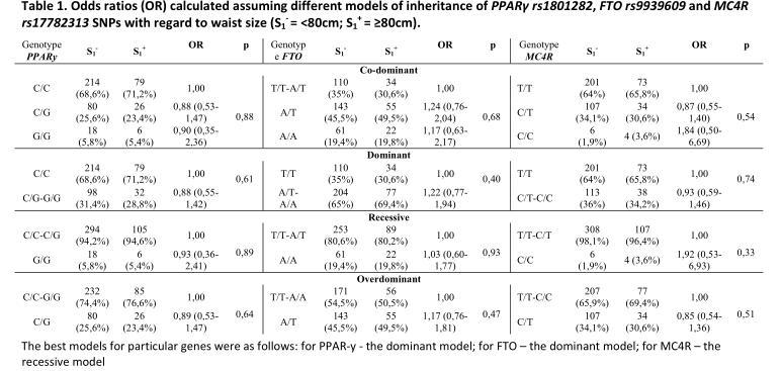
<table><tbody><tr><td>Genotype PPARy</td><td>S<sub>1</sub> <sup>-</sup></td><td>S<sub>1</sub> <sup>+</sup></td><td>OR</td><td>p</td><td>Genotyp e FTO</td><td>S<sub>1</sub> <sup>-</sup></td><td>S<sub>1</sub> <sup>+</sup></td><td>OR</td><td>p</td><td>Genotype MC4R</td><td>S<sub>1</sub> <sup>-</sup></td><td>S<sub>1</sub> <sup>+</sup></td><td>OR</td><td>p</td></tr><tr><td colspan="15">Co-dominant</td></tr><tr><td>C/C</td><td>214 (68,6%)</td><td>79 (71,2%)</td><td>1,00</td><td rowspan="3">0,88</td><td>T/T-A/T</td><td>110 (35%)</td><td>34 (30,6%)</td><td>1,00</td><td rowspan="3">0,68</td><td>T/T</td><td>201 (64%)</td><td>73 (65,8%)</td><td>1,00</td><td rowspan="3">0,54</td></tr><tr><td>C/G</td><td>80 (25,6%)</td><td>26 (23,4%)</td><td>0,88 (0,53- 1,47)</td><td>A/T</td><td>143 (45,5%)</td><td>55 (49,5%)</td><td>1,24 (0,76- 2,04)</td><td>C/T</td><td>107 (34,1%)</td><td>34 (30,6%)</td><td>0,87 (0,55- 1,40)</td></tr><tr><td>G/G</td><td>18 (5,8%)</td><td>6 (5,4%)</td><td>0,90 (0,35- 2,36)</td><td>A/A</td><td>61 (19,4%)</td><td>22 (19,8%)</td><td>1,17 (0,63- 2,17)</td><td>C/C</td><td>6 (1,9%)</td><td>4 (3,6%)</td><td>1,84 (0,50- 6,69)</td></tr><tr><td colspan="15">Dominant</td></tr><tr><td>C/C</td><td>214 (68,6%)</td><td>79 (71,2%)</td><td>1,00</td><td rowspan="2">0,61</td><td>T/T</td><td>110 (35%)</td><td>34 (30,6%)</td><td>1,00</td><td rowspan="2">0,40</td><td>T/T</td><td>201 (64%)</td><td>73 (65,8%)</td><td>1,00</td><td rowspan="2">0,74</td></tr><tr><td>C/G-G/G</td><td>98 (31,4%)</td><td>32 (28,8%)</td><td>0,88 (0,55- 1,42)</td><td>A/T- A/A</td><td>204 (65%)</td><td>77 (69,4%)</td><td>1,22 (0,77- 1,94)</td><td>C/T-C/C</td><td>113 (36%)</td><td>38 (34,2%)</td><td>0,93 (0,59- 1,46)</td></tr><tr><td colspan="15">Recessive</td></tr><tr><td>C/C-C/G</td><td>294 (94,2%)</td><td>105 (94,6%)</td><td>1,00</td><td rowspan="2">0,89</td><td>T/T-A/T</td><td>253 (80,6%)</td><td>89 (80,2%)</td><td>1,00</td><td rowspan="2">0,93</td><td>T/T-C/T</td><td>308 (98,1%)</td><td>107 (96,4%)</td><td>1,00</td><td rowspan="2">0,33</td></tr><tr><td>G/G</td><td>18 (5,8%)</td><td>6 (5,4%)</td><td>0,93 (0,36- 2,41)</td><td>A/A</td><td>61 (19,4%)</td><td>22 (19,8%)</td><td>1,03 (0,60- 1,77)</td><td>C/C</td><td>6 (1,9%)</td><td>4 (3,6%)</td><td>1,92 (0,53- 6,93)</td></tr><tr><td colspan="15">Overdominant</td></tr><tr><td>C/C-G/G</td><td>232 (74,4%)</td><td>85 (76,6%)</td><td>1,00</td><td rowspan="2">0,64</td><td>T/T-A/A</td><td>171 (54,5%)</td><td>56 (50,5%)</td><td>1,00</td><td rowspan="2">0,47</td><td>T/T-C/C</td><td>207 (65,9%)</td><td>77 (69,4%)</td><td>1,00</td><td rowspan="2">0,51</td></tr><tr><td>C/G</td><td>80 (25,6%)</td><td>26 (23,4%)</td><td>0,89 (0,53- 1,47)</td><td>A/T</td><td>143 (45,5%)</td><td>55 (49,5%)</td><td>1,17 (0,76- 1,81)</td><td>C/T</td><td>107 (34,1%)</td><td>34 (30,6%)</td><td>0,85 (0,54- 1,36)</td></tr></tbody></table>